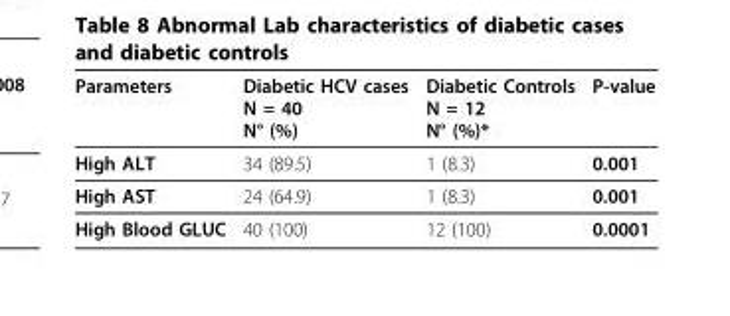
<table><thead><tr><td>Parameters</td><td>Diabetic HCV cases N = 40 N° (%)</td><td>Diabetic Controls N = 12 N° (%)*</td><td>P-value</td></tr></thead><tbody><tr><td>High ALT</td><td>34 (89.5)</td><td>1 (8.3)</td><td>0.001</td></tr><tr><td>High AST</td><td>24 (64.9)</td><td>1 (8.3)</td><td>0.001</td></tr><tr><td>High Blood GLUC</td><td>40 (100)</td><td>12 (100)</td><td>0.0001</td></tr></tbody></table>